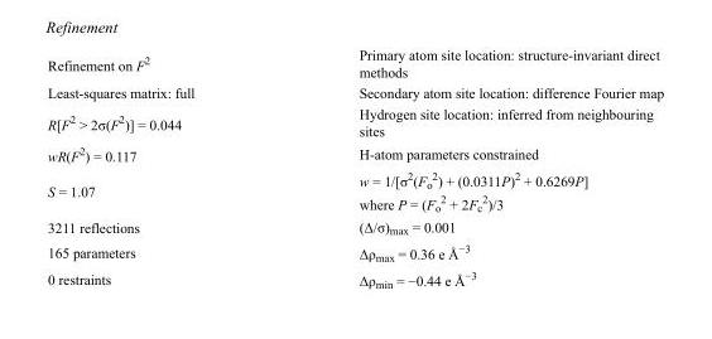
<table><tbody><tr><td>Refinement on F<sup>2</sup></td><td>Primary atom site location: structure-invariant direct methods</td></tr><tr><td>Least-squares matrix: full</td><td>Secondary atom site location: difference Fourier map</td></tr><tr><td>R[F<sup>2</sup> &gt; 2σ(F<sup>2</sup>)] = 0.044</td><td>Hydrogen site location: inferred from neighbouring sites</td></tr><tr><td>wR(F<sup>2</sup>) = 0.117</td><td>H-atom parameters constrained</td></tr><tr><td>S = 1.07</td><td>w = 1/[σ<sup>2</sup>(F<sub>o</sub> <sup>2</sup>) + (0.0311P)<sup>2</sup> + 0.6269P] where P = (F<sub>o</sub> <sup>2</sup> + 2F<sub>c</sub> <sup>2</sup>)/3</td></tr><tr><td>3211 reflections</td><td>(Δ/σ)<sub>max</sub> = 0.001</td></tr><tr><td>165 parameters</td><td>Δρ<sub>max</sub> = 0.36 e Å<sup>−3</sup></td></tr><tr><td>0 restraints</td><td>Δρ<sub>min</sub> = −0.44 e Å<sup>−3</sup></td></tr></tbody></table>